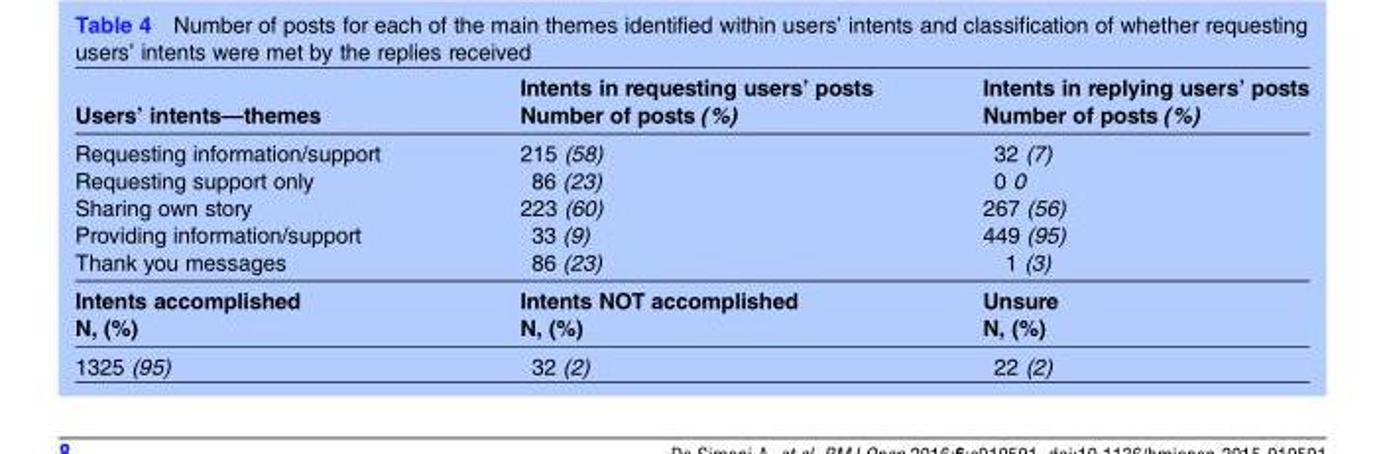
<table><thead><tr><td>Users’ intents—themes</td><td>Intents in requesting users’ posts Number of posts (%)</td><td>Intents in replying users’ posts Number of posts (%)</td></tr></thead><tbody><tr><td>Requesting information/support</td><td>215 (58)</td><td>32 (7)</td></tr><tr><td>Requesting support only</td><td>86 (23)</td><td>0 0</td></tr><tr><td>Sharing own story</td><td>223 (60)</td><td>267 (56)</td></tr><tr><td>Providing information/support</td><td>33 (9)</td><td>449 (95)</td></tr><tr><td>Thank you messages</td><td>86 (23)</td><td>1 (3)</td></tr><tr><td>Intents accomplished N, (%)</td><td>Intents NOT accomplished N, (%)</td><td>Unsure N, (%)</td></tr><tr><td>1325 (95)</td><td>32 (2)</td><td>22 (2)</td></tr></tbody></table>